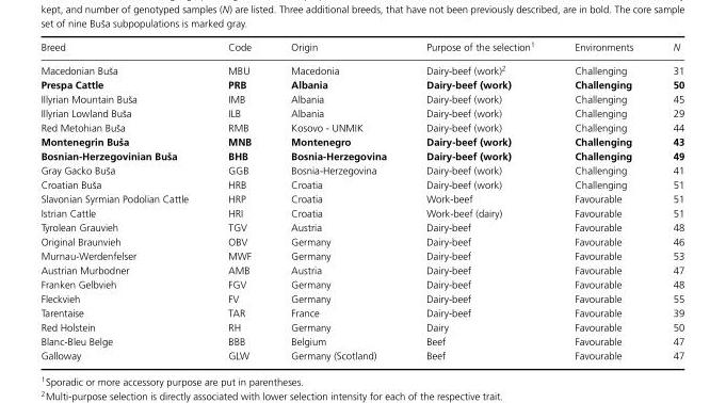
<table><thead><tr><td>Breed</td><td>Code</td><td>Origin</td><td>Purpose of the selection<sup>1</sup></td><td>Environments</td><td>N</td></tr></thead><tbody><tr><td>Macedonian Buˇsa</td><td>MBU</td><td>Macedonia</td><td>Dairy-beef (work)<sup>2</sup></td><td>Challenging</td><td>31</td></tr><tr><td>Prespa Cattle</td><td>PRB</td><td>Albania</td><td>Dairy-beef (work)</td><td>Challenging</td><td>50</td></tr><tr><td>Illyrian Mountain Buˇsa</td><td>IMB</td><td>Albania</td><td>Dairy-beef (work)</td><td>Challenging</td><td>45</td></tr><tr><td>Illyrian Lowland Buˇsa</td><td>ILB</td><td>Albania</td><td>Dairy-beef (work)</td><td>Challenging</td><td>29</td></tr><tr><td>Red Metohian Buˇsa</td><td>RMB</td><td>Kosovo - UNMIK</td><td>Dairy-beef (work)</td><td>Challenging</td><td>44</td></tr><tr><td>Montenegrin Buˇsa</td><td>MNB</td><td>Montenegro</td><td>Dairy-beef (work)</td><td>Challenging</td><td>43</td></tr><tr><td>Bosnian-Herzegovinian Buˇsa</td><td>BHB</td><td>Bosnia-Herzegovina</td><td>Dairy-beef (work)</td><td>Challenging</td><td>49</td></tr><tr><td>Gray Gacko Buˇsa</td><td>GGB</td><td>Bosnia-Herzegovina</td><td>Dairy-beef (work)</td><td>Challenging</td><td>41</td></tr><tr><td>Croatian Buˇsa</td><td>HRB</td><td>Croatia</td><td>Dairy-beef (work)</td><td>Challenging</td><td>51</td></tr><tr><td>Slavonian Syrmian Podolian Cattle</td><td>HRP</td><td>Croatia</td><td>Work-beef</td><td>Favourable</td><td>51</td></tr><tr><td>Istrian Cattle</td><td>HRI</td><td>Croatia</td><td>Work-beef (dairy)</td><td>Favourable</td><td>51</td></tr><tr><td>Tyrolean Grauvieh</td><td>TGV</td><td>Austria</td><td>Dairy-beef</td><td>Favourable</td><td>48</td></tr><tr><td>Original Braunvieh</td><td>OBV</td><td>Germany</td><td>Dairy-beef</td><td>Favourable</td><td>46</td></tr><tr><td>Murnau-Werdenfelser</td><td>MWF</td><td>Germany</td><td>Dairy-beef</td><td>Favourable</td><td>53</td></tr><tr><td>Austrian Murbodner</td><td>AMB</td><td>Austria</td><td>Dairy-beef</td><td>Favourable</td><td>47</td></tr><tr><td>Franken Gelbvieh</td><td>FGV</td><td>Germany</td><td>Dairy-beef</td><td>Favourable</td><td>48</td></tr><tr><td>Fleckvieh</td><td>FV</td><td>Germany</td><td>Dairy-beef</td><td>Favourable</td><td>55</td></tr><tr><td>Tarentaise</td><td>TAR</td><td>France</td><td>Dairy-beef</td><td>Favourable</td><td>39</td></tr><tr><td>Red Holstein</td><td>RH</td><td>Germany</td><td>Dairy</td><td>Favourable</td><td>50</td></tr><tr><td>Blanc-Bleu Belge</td><td>BBB</td><td>Belgium</td><td>Beef</td><td>Favourable</td><td>47</td></tr><tr><td>Galloway</td><td>GLW</td><td>Germany (Scotland)</td><td>Beef</td><td>Favourable</td><td>47</td></tr></tbody></table>